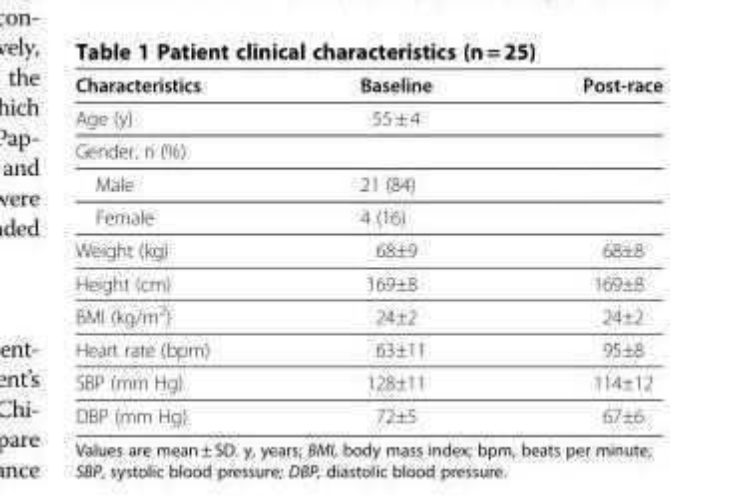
<table><thead><tr><td>Characteristics</td><td>Baseline</td><td>Post-race</td></tr></thead><tbody><tr><td>Age (y)</td><td>55 ± 4</td><td></td></tr><tr><td colspan="3">Gender, n (%)</td></tr><tr><td>Male</td><td>21 (84)</td><td></td></tr><tr><td>Female</td><td>4 (16)</td><td></td></tr><tr><td>Weight (kg)</td><td>68±9</td><td>68±8</td></tr><tr><td>Height (cm)</td><td>169±8</td><td>169±8</td></tr><tr><td>BMI (kg/m<sup>2</sup>)</td><td>24±2</td><td>24±2</td></tr><tr><td>Heart rate (bpm)</td><td>63±11</td><td>95±8</td></tr><tr><td>SBP (mm Hg)</td><td>128±11</td><td>114±12</td></tr><tr><td>DBP (mm Hg)</td><td>72±5</td><td>67±6</td></tr></tbody></table>